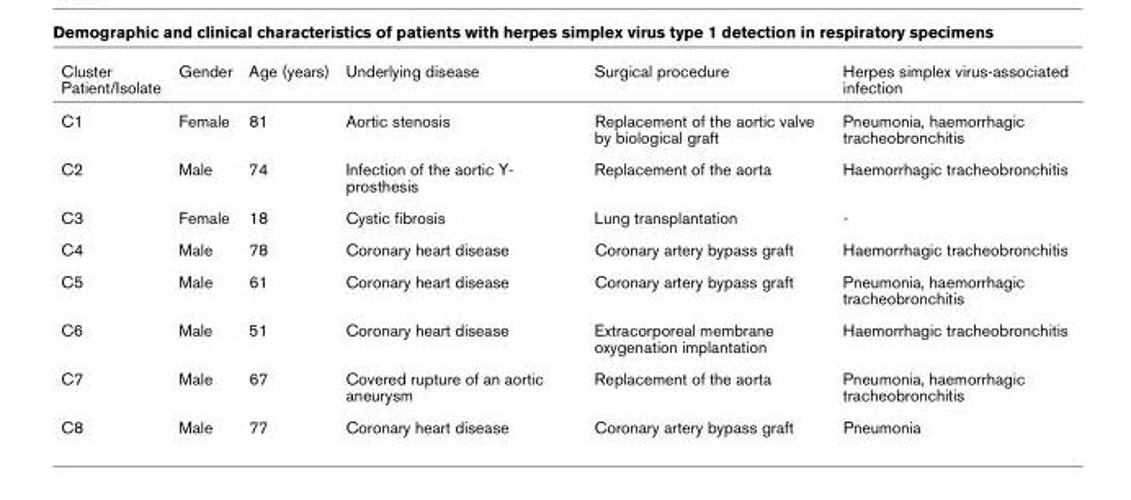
<table><thead><tr><td>Cluster Patient/Isolate</td><td>Gender</td><td>Age (years)</td><td>Underlying disease</td><td>Surgical procedure</td><td>Herpes simplex virus-associated infection</td></tr></thead><tbody><tr><td>C1</td><td>Female</td><td>81</td><td>Aortic stenosis</td><td>Replacement of the aortic valve by biological graft</td><td>Pneumonia, haemorrhagic tracheobronchitis</td></tr><tr><td>C2</td><td>Male</td><td>74</td><td>Infection of the aortic Y- prosthesis</td><td>Replacement of the aorta</td><td>Haemorrhagic tracheobronchitis</td></tr><tr><td>C3</td><td>Female</td><td>18</td><td>Cystic fibrosis</td><td>Lung transplantation</td><td>-</td></tr><tr><td>C4</td><td>Male</td><td>78</td><td>Coronary heart disease</td><td>Coronary artery bypass graft</td><td>Haemorrhagic tracheobronchitis</td></tr><tr><td>C5</td><td>Male</td><td>61</td><td>Coronary heart disease</td><td>Coronary artery bypass graft</td><td>Pneumonia, haemorrhagic tracheobronchitis</td></tr><tr><td>C6</td><td>Male</td><td>51</td><td>Coronary heart disease</td><td>Extracorporeal membrane oxygenation implantation</td><td>Haemorrhagic tracheobronchitis</td></tr><tr><td>C7</td><td>Male</td><td>67</td><td>Covered rupture of an aortic aneurysm</td><td>Replacement of the aorta</td><td>Pneumonia, haemorrhagic tracheobronchitis</td></tr><tr><td>C8</td><td>Male</td><td>77</td><td>Coronary heart disease</td><td>Coronary artery bypass graft</td><td>Pneumonia</td></tr></tbody></table>